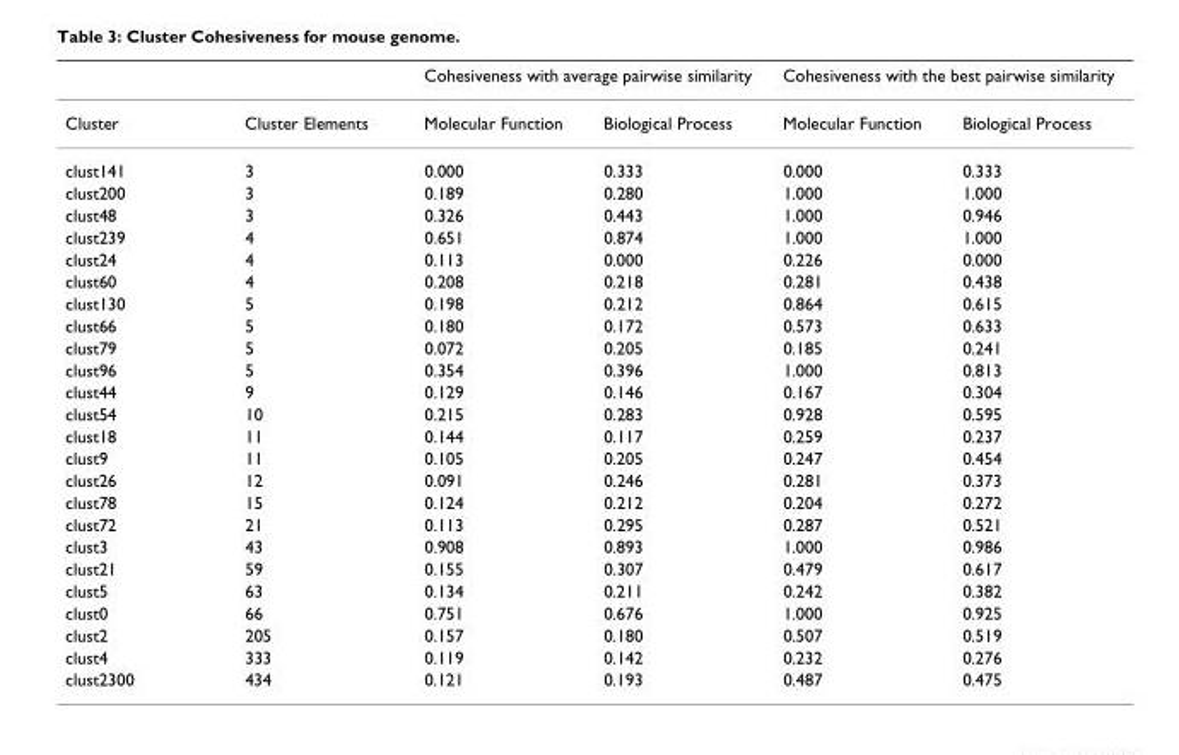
<table><thead><tr><td rowspan="2">Cluster</td><td rowspan="2">Cluster Elements</td><td colspan="2">Cohesiveness with average pairwise similarity</td><td colspan="2">Cohesiveness with the best pairwise similarity</td></tr><tr><td>Molecular Function</td><td>Biological Process</td><td>Molecular Function</td><td>Biological Process</td></tr></thead><tbody><tr><td>clust141</td><td>3</td><td>0.000</td><td>0.333</td><td>0.000</td><td>0.333</td></tr><tr><td>clust200</td><td>3</td><td>0.189</td><td>0.280</td><td>1.000</td><td>1.000</td></tr><tr><td>clust48</td><td>3</td><td>0.326</td><td>0.443</td><td>1.000</td><td>0.946</td></tr><tr><td>clust239</td><td>4</td><td>0.651</td><td>0.874</td><td>1.000</td><td>1.000</td></tr><tr><td>clust24</td><td>4</td><td>0.113</td><td>0.000</td><td>0.226</td><td>0.000</td></tr><tr><td>clust60</td><td>4</td><td>0.208</td><td>0.218</td><td>0.281</td><td>0.438</td></tr><tr><td>clust130</td><td>5</td><td>0.198</td><td>0.212</td><td>0.864</td><td>0.615</td></tr><tr><td>clust66</td><td>5</td><td>0.180</td><td>0.172</td><td>0.573</td><td>0.633</td></tr><tr><td>clust79</td><td>5</td><td>0.072</td><td>0.205</td><td>0.185</td><td>0.241</td></tr><tr><td>clust96</td><td>5</td><td>0.354</td><td>0.396</td><td>1.000</td><td>0.813</td></tr><tr><td>clust44</td><td>9</td><td>0.129</td><td>0.146</td><td>0.167</td><td>0.304</td></tr><tr><td>clust54</td><td>10</td><td>0.215</td><td>0.283</td><td>0.928</td><td>0.595</td></tr><tr><td>clust18</td><td>11</td><td>0.144</td><td>0.117</td><td>0.259</td><td>0.237</td></tr><tr><td>clust9</td><td>11</td><td>0.105</td><td>0.205</td><td>0.247</td><td>0.454</td></tr><tr><td>clust26</td><td>12</td><td>0.091</td><td>0.246</td><td>0.281</td><td>0.373</td></tr><tr><td>clust78</td><td>15</td><td>0.124</td><td>0.212</td><td>0.204</td><td>0.272</td></tr><tr><td>clust72</td><td>21</td><td>0.113</td><td>0.295</td><td>0.287</td><td>0.521</td></tr><tr><td>clust3</td><td>43</td><td>0.908</td><td>0.893</td><td>1.000</td><td>0.986</td></tr><tr><td>clust21</td><td>59</td><td>0.155</td><td>0.307</td><td>0.479</td><td>0.617</td></tr><tr><td>clust5</td><td>63</td><td>0.134</td><td>0.211</td><td>0.242</td><td>0.382</td></tr><tr><td>clust0</td><td>66</td><td>0.751</td><td>0.676</td><td>1.000</td><td>0.925</td></tr><tr><td>clust2</td><td>205</td><td>0.157</td><td>0.180</td><td>0.507</td><td>0.519</td></tr><tr><td>clust4</td><td>333</td><td>0.119</td><td>0.142</td><td>0.232</td><td>0.276</td></tr><tr><td>clust2300</td><td>434</td><td>0.121</td><td>0.193</td><td>0.487</td><td>0.475</td></tr></tbody></table>